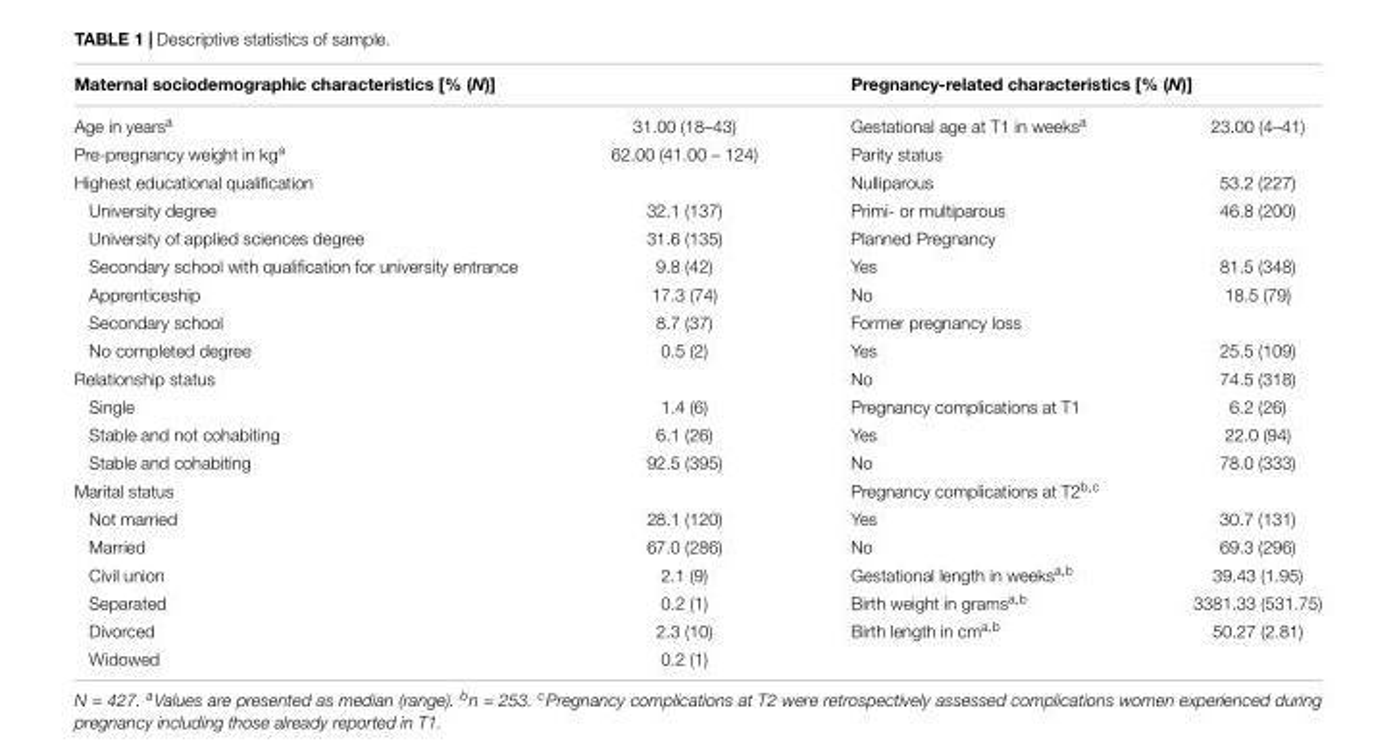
<table><thead><tr><td colspan="2">Maternal sociodemographic characteristics [% (N)]</td><td colspan="2">Pregnancy-related characteristics [% (N)]</td></tr><tr><td>Age in years<sup>a</sup></td><td>31.00 (18–43)</td><td>Gestational age at T1 in weeks<sup>a</sup></td><td>23.00 (4–41)</td></tr></thead><tbody><tr><td>Pre-pregnancy weight in kg<sup>a</sup></td><td>62.00 (41.00 – 124)</td><td>Parity status</td><td></td></tr><tr><td>Highest educational qualification</td><td></td><td>Nulliparous</td><td>53.2 (227)</td></tr><tr><td>University degree</td><td>32.1 (137)</td><td>Primi- or multiparous</td><td>46.8 (200)</td></tr><tr><td>University of applied sciences degree</td><td>31.6 (135)</td><td>Planned Pregnancy</td><td></td></tr><tr><td>Secondary school with qualification for university entrance</td><td>9.8 (42)</td><td>Yes</td><td>81.5 (348)</td></tr><tr><td>Apprenticeship</td><td>17.3 (74)</td><td>No</td><td>18.5 (79)</td></tr><tr><td>Secondary school</td><td>8.7 (37)</td><td>Former pregnancy loss</td><td></td></tr><tr><td>No completed degree</td><td>0.5 (2)</td><td>Yes</td><td>25.5 (109)</td></tr><tr><td>Relationship status</td><td></td><td>No</td><td>74.5 (318)</td></tr><tr><td>Single</td><td>1.4 (6)</td><td>Pregnancy complications at T1</td><td>6.2 (26)</td></tr><tr><td>Stable and not cohabiting</td><td>6.1 (26)</td><td>Yes</td><td>22.0 (94)</td></tr><tr><td>Stable and cohabiting</td><td>92.5 (395)</td><td>No</td><td>78.0 (333)</td></tr><tr><td>Marital status</td><td></td><td>Pregnancy complications at T2<sup>b,c</sup></td><td></td></tr><tr><td>Not married</td><td>28.1 (120)</td><td>Yes</td><td>30.7 (131)</td></tr><tr><td>Married</td><td>67.0 (286)</td><td>No</td><td>69.3 (296)</td></tr><tr><td>Civil union</td><td>2.1 (9)</td><td>Gestational length in weeks<sup>a,b</sup></td><td>39.43 (1.95)</td></tr><tr><td>Separated</td><td>0.2 (1)</td><td>Birth weight in grams<sup>a,b</sup></td><td>3381.33 (531.75)</td></tr><tr><td>Divorced</td><td>2.3 (10)</td><td>Birth length in cm<sup>a,b</sup></td><td>50.27 (2.81)</td></tr><tr><td>Widowed</td><td>0.2 (1)</td><td></td><td></td></tr></tbody></table>